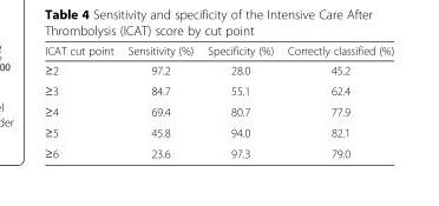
<table><thead><tr><td>ICAT cut point</td><td>Sensitivity (%)</td><td>Specificity (%)</td><td>Correctly classified (%)</td></tr></thead><tbody><tr><td>≥2</td><td>97.2</td><td>28.0</td><td>45.2</td></tr><tr><td>≥3</td><td>84.7</td><td>55.1</td><td>62.4</td></tr><tr><td>≥4</td><td>69.4</td><td>80.7</td><td>77.9</td></tr><tr><td>≥5</td><td>45.8</td><td>94.0</td><td>82.1</td></tr><tr><td>≥6</td><td>23.6</td><td>97.3</td><td>79.0</td></tr></tbody></table>